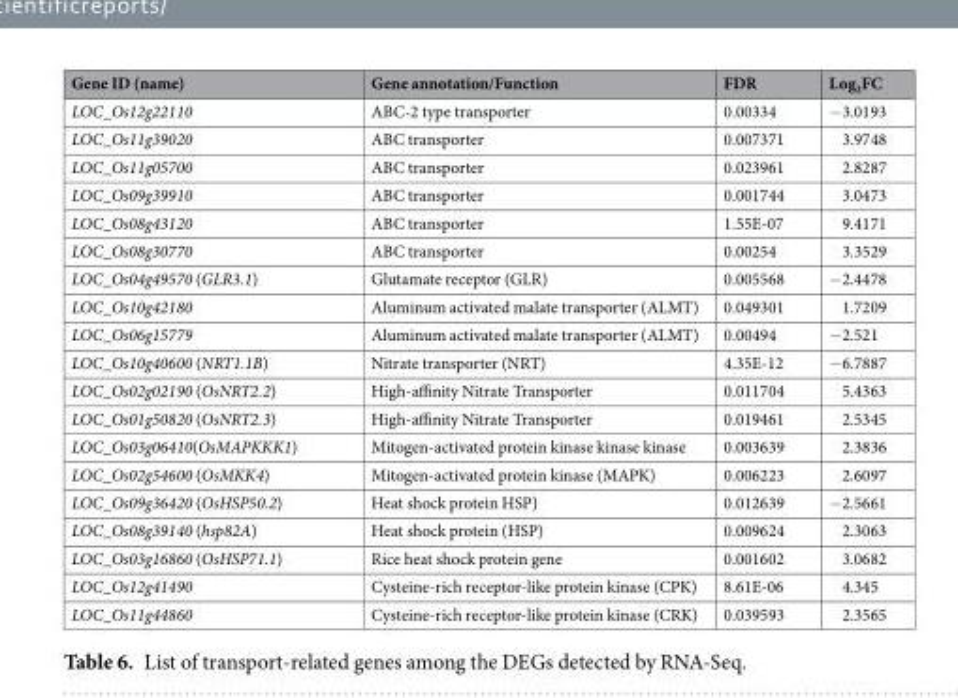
<table><thead><tr><td>Gene ID (name)</td><td>Gene annotation/Function</td><td>FDR</td><td>Log<sub>2</sub>FC</td></tr></thead><tbody><tr><td>LOC_Os12g22110</td><td>ABC-2 type transporter</td><td>0.00334</td><td>−3.0193</td></tr><tr><td>LOC_Os11g39020</td><td>ABC transporter</td><td>0.007371</td><td>3.9748</td></tr><tr><td>LOC_Os11g05700</td><td>ABC transporter</td><td>0.023961</td><td>2.8287</td></tr><tr><td>LOC_Os09g39910</td><td>ABC transporter</td><td>0.001744</td><td>3.0473</td></tr><tr><td>LOC_Os08g43120</td><td>ABC transporter</td><td>1.55E-07</td><td>9.4171</td></tr><tr><td>LOC_Os08g30770</td><td>ABC transporter</td><td>0.00254</td><td>3.3529</td></tr><tr><td>LOC_Os04g49570 (GLR3.1)</td><td>Glutamate receptor (GLR)</td><td>0.005568</td><td>−2.4478</td></tr><tr><td>LOC_Os10g42180</td><td>Aluminum activated malate transporter (ALMT)</td><td>0.049301</td><td>1.7209</td></tr><tr><td>LOC_Os06g15779</td><td>Aluminum activated malate transporter (ALMT)</td><td>0.00494</td><td>−2.521</td></tr><tr><td>LOC_Os10g40600 (NRT1.1B)</td><td>Nitrate transporter (NRT)</td><td>4.35E-12</td><td>−6.7887</td></tr><tr><td>LOC_Os02g02190 (OsNRT2.2)</td><td>High-affinity Nitrate Transporter</td><td>0.011704</td><td>5.4363</td></tr><tr><td>LOC_Os01g50820 (OsNRT2.3)</td><td>High-affinity Nitrate Transporter</td><td>0.019461</td><td>2.5345</td></tr><tr><td>LOC_Os03g06410(OsMAPKKK1)</td><td>Mitogen-activated protein kinase kinase kinase</td><td>0.003639</td><td>2.3836</td></tr><tr><td>LOC_Os02g54600 (OsMKK4)</td><td>Mitogen-activated protein kinase (MAPK)</td><td>0.006223</td><td>2.6097</td></tr><tr><td>LOC_Os09g36420 (OsHSP50.2)</td><td>Heat shock protein HSP)</td><td>0.012639</td><td>−2.5661</td></tr><tr><td>LOC_Os08g39140 (hsp82A)</td><td>Heat shock protein (HSP)</td><td>0.009624</td><td>2.3063</td></tr><tr><td>LOC_Os03g16860 (OsHSP71.1)</td><td>Rice heat shock protein gene</td><td>0.001602</td><td>3.0682</td></tr><tr><td>LOC_Os12g41490</td><td>Cysteine-rich receptor-like protein kinase (CPK)</td><td>8.61E-06</td><td>4.345</td></tr><tr><td>LOC_Os11g44860</td><td>Cysteine-rich receptor-like protein kinase (CRK)</td><td>0.039593</td><td>2.3565</td></tr></tbody></table>